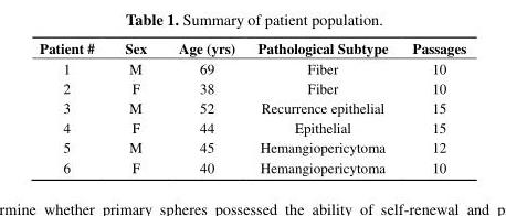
<table><thead><tr><td>Patient #</td><td>Sex</td><td>Age (yrs)</td><td>Pathological Subtype</td><td>Passages</td></tr></thead><tbody><tr><td>1</td><td>M</td><td>69</td><td>Fiber</td><td>10</td></tr><tr><td>2</td><td>F</td><td>38</td><td>Fiber</td><td>10</td></tr><tr><td>3</td><td>M</td><td>52</td><td>Recurrence epithelial</td><td>15</td></tr><tr><td>4</td><td>F</td><td>44</td><td>Epithelial</td><td>15</td></tr><tr><td>5</td><td>M</td><td>45</td><td>Hemangiopericytoma</td><td>12</td></tr><tr><td>6</td><td>F</td><td>40</td><td>Hemangiopericytoma</td><td>10</td></tr></tbody></table>